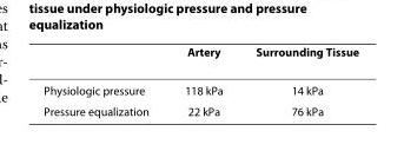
<table><thead><tr><td></td><td>Artery</td><td>Surrounding Tissue</td></tr></thead><tbody><tr><td>Physiologic pressure</td><td>118 kPa</td><td>14 kPa</td></tr><tr><td>Pressure equalization</td><td>22 kPa</td><td>76 kPa</td></tr></tbody></table>